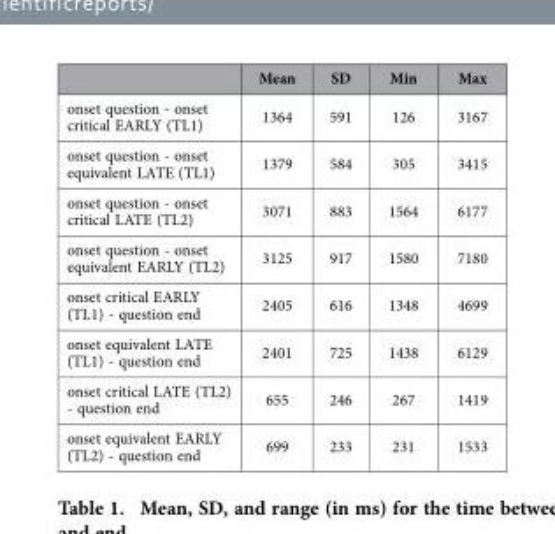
<table><thead><tr><td></td><td>Mean</td><td>SD</td><td>Min</td><td>Max</td></tr></thead><tbody><tr><td>onset question - onset critical EARLY (TL1)</td><td>1364</td><td>591</td><td>126</td><td>3167</td></tr><tr><td>onset question - onset equivalent LATE (TL1)</td><td>1379</td><td>584</td><td>305</td><td>3415</td></tr><tr><td>onset question - onset critical LATE (TL2)</td><td>3071</td><td>883</td><td>1564</td><td>6177</td></tr><tr><td>onset question - onset equivalent EARLY (TL2)</td><td>3125</td><td>917</td><td>1580</td><td>7180</td></tr><tr><td>onset critical EARLY (TL1) - question end</td><td>2405</td><td>616</td><td>1348</td><td>4699</td></tr><tr><td>onset equivalent LATE (TL1) - question end</td><td>2401</td><td>725</td><td>1438</td><td>6129</td></tr><tr><td>onset critical LATE (TL2) - question end</td><td>655</td><td>246</td><td>267</td><td>1419</td></tr><tr><td>onset equivalent EARLY (TL2) - question end</td><td>699</td><td>233</td><td>231</td><td>1533</td></tr></tbody></table>